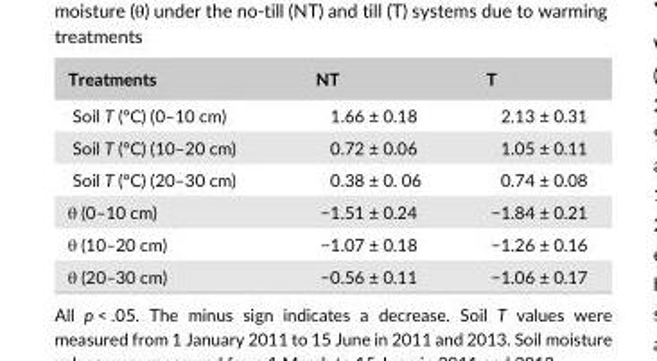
<table><thead><tr><td>Treatments</td><td>NT</td><td>T</td></tr></thead><tbody><tr><td>Soil T (°C) (0–10 cm)</td><td>1.66 ± 0.18</td><td>2.13 ± 0.31</td></tr><tr><td>Soil T (°C) (10–20 cm)</td><td>0.72 ± 0.06</td><td>1.05 ± 0.11</td></tr><tr><td>Soil T (°C) (20–30 cm)</td><td>0.38 ± 0. 06</td><td>0.74 ± 0.08</td></tr><tr><td>θ (0–10 cm)</td><td>−1.51 ± 0.24</td><td>−1.84 ± 0.21</td></tr><tr><td>θ (10–20 cm)</td><td>−1.07 ± 0.18</td><td>−1.26 ± 0.16</td></tr><tr><td>θ (20–30 cm)</td><td>−0.56 ± 0.11</td><td>−1.06 ± 0.17</td></tr></tbody></table>